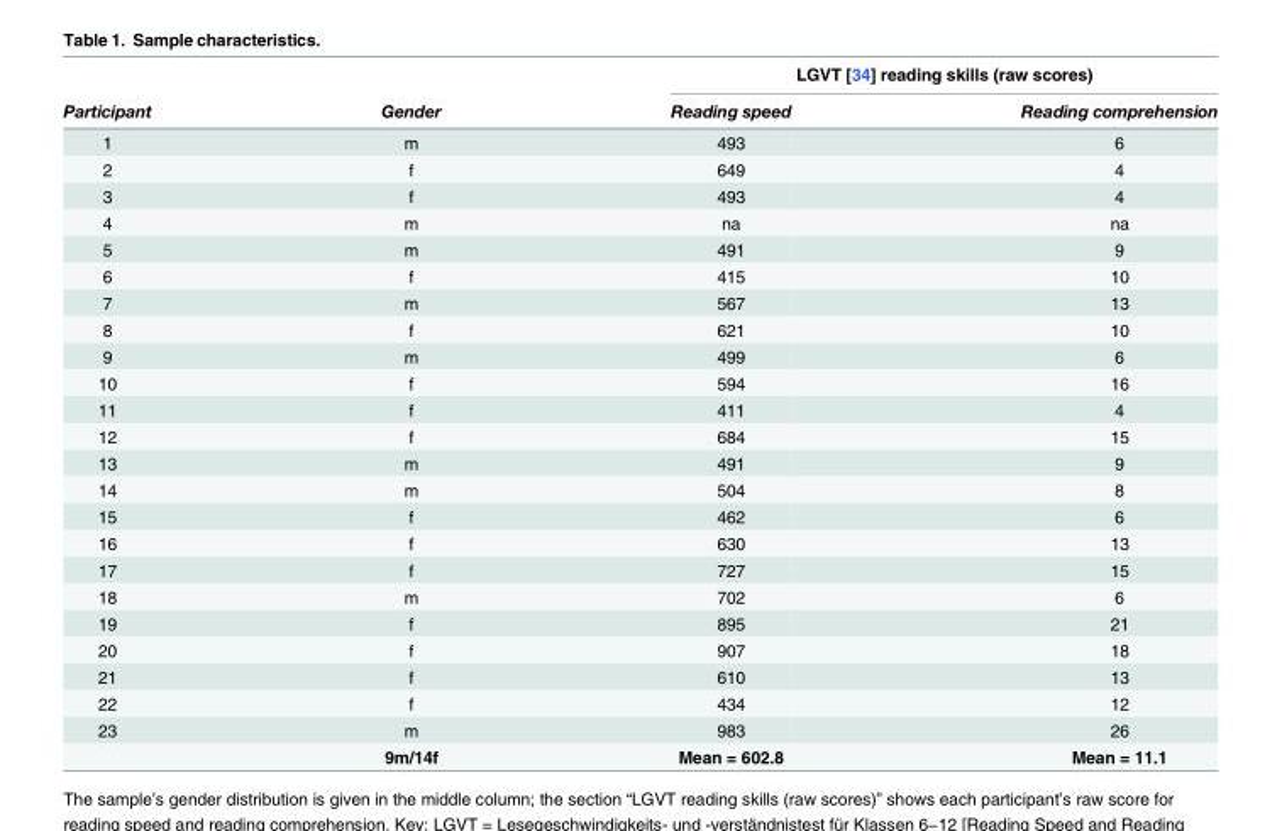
<table><thead><tr><td rowspan="2">Participant</td><td rowspan="2">Gender</td><td colspan="2">LGVT [34] reading skills (raw scores)</td></tr><tr><td>Reading speed</td><td>Reading comprehension</td></tr></thead><tbody><tr><td>1</td><td>m</td><td>493</td><td>6</td></tr><tr><td>2</td><td>f</td><td>649</td><td>4</td></tr><tr><td>3</td><td>f</td><td>493</td><td>4</td></tr><tr><td>4</td><td>m</td><td>na</td><td>na</td></tr><tr><td>5</td><td>m</td><td>491</td><td>9</td></tr><tr><td>6</td><td>f</td><td>415</td><td>10</td></tr><tr><td>7</td><td>m</td><td>567</td><td>13</td></tr><tr><td>8</td><td>f</td><td>621</td><td>10</td></tr><tr><td>9</td><td>m</td><td>499</td><td>6</td></tr><tr><td>10</td><td>f</td><td>594</td><td>16</td></tr><tr><td>11</td><td>f</td><td>411</td><td>4</td></tr><tr><td>12</td><td>f</td><td>684</td><td>15</td></tr><tr><td>13</td><td>m</td><td>491</td><td>9</td></tr><tr><td>14</td><td>m</td><td>504</td><td>8</td></tr><tr><td>15</td><td>f</td><td>462</td><td>6</td></tr><tr><td>16</td><td>f</td><td>630</td><td>13</td></tr><tr><td>17</td><td>f</td><td>727</td><td>15</td></tr><tr><td>18</td><td>m</td><td>702</td><td>6</td></tr><tr><td>19</td><td>f</td><td>895</td><td>21</td></tr><tr><td>20</td><td>f</td><td>907</td><td>18</td></tr><tr><td>21</td><td>f</td><td>610</td><td>13</td></tr><tr><td>22</td><td>f</td><td>434</td><td>12</td></tr><tr><td rowspan="2">23</td><td>m</td><td>983</td><td>26</td></tr><tr><td>9m/14f</td><td>Mean = 602.8</td><td>Mean = 11.1</td></tr></tbody></table>